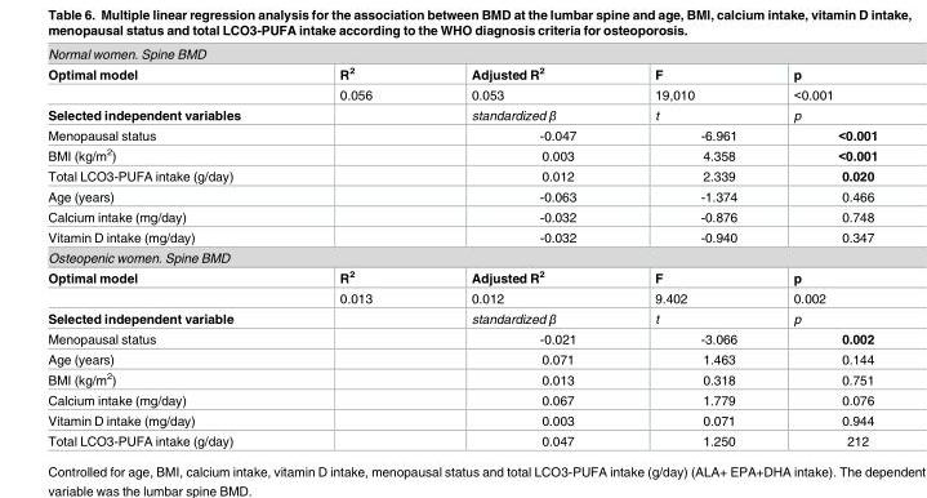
<table><tbody><tr><td colspan="5">Normal women. Spine BMD</td></tr><tr><td rowspan="2">Optimal model</td><td>R<sup>2</sup></td><td>Adjusted R<sup>2</sup></td><td>F</td><td>p</td></tr><tr><td>0.056</td><td>0.053</td><td>19,010</td><td>&lt;0.001</td></tr><tr><td>Selected independent variables</td><td></td><td>standardized β</td><td>t</td><td>p</td></tr><tr><td>Menopausal status</td><td></td><td>-0.047</td><td>-6.961</td><td>&lt;0.001</td></tr><tr><td>BMI (kg/m<sup>2</sup>)</td><td></td><td>0.003</td><td>4.358</td><td>&lt;0.001</td></tr><tr><td>Total LCO3-PUFA intake (g/day)</td><td></td><td>0.012</td><td>2.339</td><td>0.020</td></tr><tr><td>Age (years)</td><td></td><td>-0.063</td><td>-1.374</td><td>0.466</td></tr><tr><td>Calcium intake (mg/day)</td><td></td><td>-0.032</td><td>-0.876</td><td>0.748</td></tr><tr><td>Vitamin D intake (mg/day)</td><td></td><td>-0.032</td><td>-0.940</td><td>0.347</td></tr><tr><td colspan="5">Osteopenic women. Spine BMD</td></tr><tr><td rowspan="2">Optimal model</td><td>R<sup>2</sup></td><td>Adjusted R<sup>2</sup></td><td>F</td><td>p</td></tr><tr><td>0.013</td><td>0.012</td><td>9.402</td><td>0.002</td></tr><tr><td>Selected independent variable</td><td></td><td>standardized β</td><td>t</td><td>p</td></tr><tr><td>Menopausal status</td><td></td><td>-0.021</td><td>-3.066</td><td>0.002</td></tr><tr><td>Age (years)</td><td></td><td>0.071</td><td>1.463</td><td>0.144</td></tr><tr><td>BMI (kg/m<sup>2</sup>)</td><td></td><td>0.013</td><td>0.318</td><td>0.751</td></tr><tr><td>Calcium intake (mg/day)</td><td></td><td>0.067</td><td>1.779</td><td>0.076</td></tr><tr><td>Vitamin D intake (mg/day)</td><td></td><td>0.003</td><td>0.071</td><td>0.944</td></tr><tr><td>Total LCO3-PUFA intake (g/day)</td><td></td><td>0.047</td><td>1.250</td><td>212</td></tr></tbody></table>